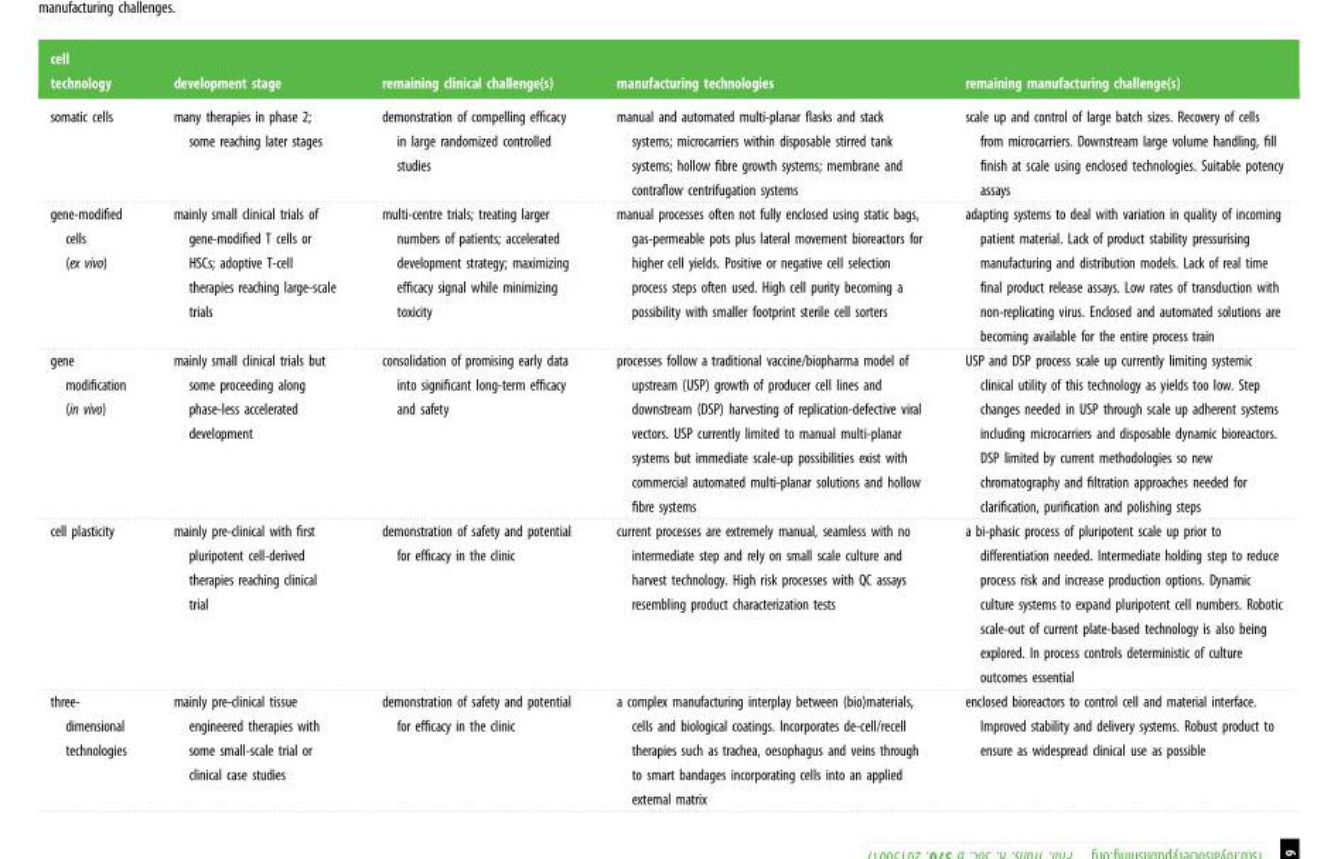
<table><thead><tr><td>cell technology</td><td>development stage</td><td>remaining clinical challenge(s)</td><td>manufacturing technologies</td><td>remaining manufacturing challenge(s)</td></tr></thead><tbody><tr><td>somatic cells</td><td>many therapies in phase 2; some reaching later stages</td><td>demonstration of compelling efficacy in large randomized controlled studies</td><td>manual and automated multi-planar flasks and stack systems; microcarriers within disposable stirred tank systems; hollow fibre growth systems; membrane and contraflow centrifugation systems</td><td>scale up and control of large batch sizes. Recovery of cells from microcarriers. Downstream large volume handling, fill finish at scale using enclosed technologies. Suitable potency assays</td></tr><tr><td>gene-modified cells (ex vivo)</td><td>mainly small clinical trials of gene-modified T cells or HSCs; adoptive T-cell therapies reaching large-scale trials</td><td>multi-centre trials; treating larger numbers of patients; accelerated development strategy; maximizing efficacy signal while minimizing toxicity</td><td>manual processes often not fully enclosed using static bags, gas-permeable pots plus lateral movement bioreactors for higher cell yields. Positive or negative cell selection process steps often used. High cell purity becoming a possibility with smaller footprint sterile cell sorters</td><td>adapting systems to deal with variation in quality of incoming patient material. Lack of product stability pressurising manufacturing and distribution models. Lack of real time final product release assays. Low rates of transduction with non-replicating virus. Enclosed and automated solutions are becoming available for the entire process train</td></tr><tr><td>gene modification (in vivo)</td><td>mainly small clinical trials but some proceeding along phase-less accelerated development</td><td>consolidation of promising early data into significant long-term efficacy and safety</td><td>processes follow a traditional vaccine/biopharma model of upstream (USP) growth of producer cell lines and downstream (DSP) harvesting of replication-defective viral vectors. USP currently limited to manual multi-planar systems but immediate scale-up possibilities exist with commercial automated multi-planar solutions and hollow fibre systems</td><td>USP and DSP process scale up currently limiting systemic clinical utility of this technology as yields too low. Step changes needed in USP through scale up adherent systems including microcarriers and disposable dynamic bioreactors. DSP limited by current methodologies so new chromatography and filtration approaches needed for clarification, purification and polishing steps</td></tr><tr><td>cell plasticity</td><td>mainly pre-clinical with first pluripotent cell-derived therapies reaching clinical trial</td><td>demonstration of safety and potential for efficacy in the clinic</td><td>current processes are extremely manual, seamless with no intermediate step and rely on small scale culture and harvest technology. High risk processes with QC assays resembling product characterization tests</td><td>a bi-phasic process of pluripotent scale up prior to differentiation needed. Intermediate holding step to reduce process risk and increase production options. Dynamic culture systems to expand pluripotent cell numbers. Robotic scale-out of current plate-based technology is also being explored. In process controls deterministic of culture outcomes essential</td></tr><tr><td>three- dimensional technologies</td><td>mainly pre-clinical tissue engineered therapies with some small-scale trial or clinical case studies</td><td>demonstration of safety and potential for efficacy in the clinic</td><td>a complex manufacturing interplay between (bio)materials, cells and biological coatings. Incorporates de-cell/recell therapies such as trachea, oesophagus and veins through to smart bandages incorporating cells into an applied external matrix</td><td>enclosed bioreactors to control cell and material interface. Improved stability and delivery systems. Robust product to ensure as widespread clinical use as possible</td></tr></tbody></table>